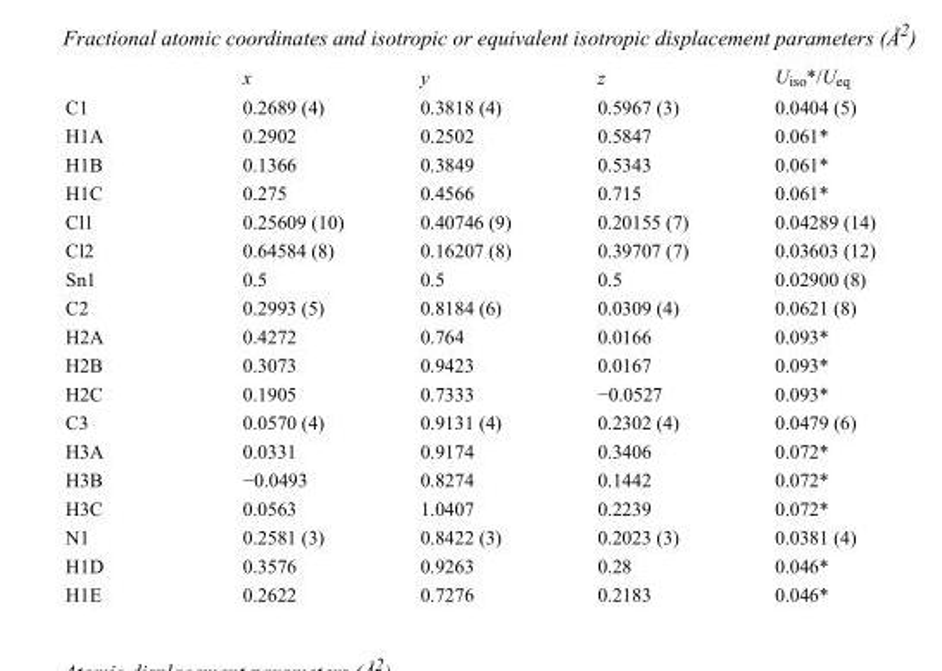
<table><thead><tr><td></td><td>x</td><td>y</td><td>z</td><td>U<sub>iso</sub>*/U<sub>eq</sub></td></tr></thead><tbody><tr><td>C1</td><td>0.2689 (4)</td><td>0.3818 (4)</td><td>0.5967 (3)</td><td>0.0404 (5)</td></tr><tr><td>H1A</td><td>0.2902</td><td>0.2502</td><td>0.5847</td><td>0.061*</td></tr><tr><td>H1B</td><td>0.1366</td><td>0.3849</td><td>0.5343</td><td>0.061*</td></tr><tr><td>H1C</td><td>0.275</td><td>0.4566</td><td>0.715</td><td>0.061*</td></tr><tr><td>Cl1</td><td>0.25609 (10)</td><td>0.40746 (9)</td><td>0.20155 (7)</td><td>0.04289 (14)</td></tr><tr><td>Cl2</td><td>0.64584 (8)</td><td>0.16207 (8)</td><td>0.39707 (7)</td><td>0.03603 (12)</td></tr><tr><td>Sn1</td><td>0.5</td><td>0.5</td><td>0.5</td><td>0.02900 (8)</td></tr><tr><td>C2</td><td>0.2993 (5)</td><td>0.8184 (6)</td><td>0.0309 (4)</td><td>0.0621 (8)</td></tr><tr><td>H2A</td><td>0.4272</td><td>0.764</td><td>0.0166</td><td>0.093*</td></tr><tr><td>H2B</td><td>0.3073</td><td>0.9423</td><td>0.0167</td><td>0.093*</td></tr><tr><td>H2C</td><td>0.1905</td><td>0.7333</td><td>−0.0527</td><td>0.093*</td></tr><tr><td>C3</td><td>0.0570 (4)</td><td>0.9131 (4)</td><td>0.2302 (4)</td><td>0.0479 (6)</td></tr><tr><td>H3A</td><td>0.0331</td><td>0.9174</td><td>0.3406</td><td>0.072*</td></tr><tr><td>H3B</td><td>−0.0493</td><td>0.8274</td><td>0.1442</td><td>0.072*</td></tr><tr><td>H3C</td><td>0.0563</td><td>1.0407</td><td>0.2239</td><td>0.072*</td></tr><tr><td>N1</td><td>0.2581 (3)</td><td>0.8422 (3)</td><td>0.2023 (3)</td><td>0.0381 (4)</td></tr><tr><td>H1D</td><td>0.3576</td><td>0.9263</td><td>0.28</td><td>0.046*</td></tr><tr><td>H1E</td><td>0.2622</td><td>0.7276</td><td>0.2183</td><td>0.046*</td></tr></tbody></table>